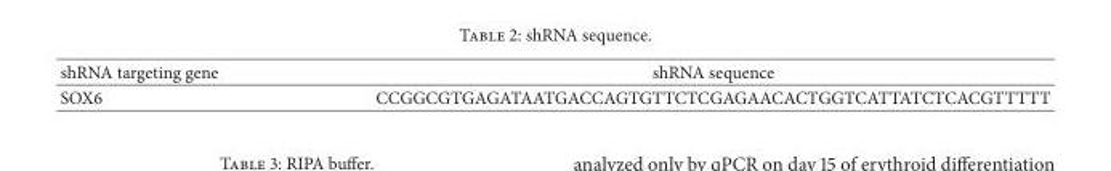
<table><thead><tr><td>shRNA targeting gene</td><td>shRNA sequence</td></tr></thead><tbody><tr><td>SOX6</td><td>CCGGCGTGAGATAATGACCAGTGTTCTCGAGAACACTGGTCATTATCTCACGTTTTT</td></tr></tbody></table>